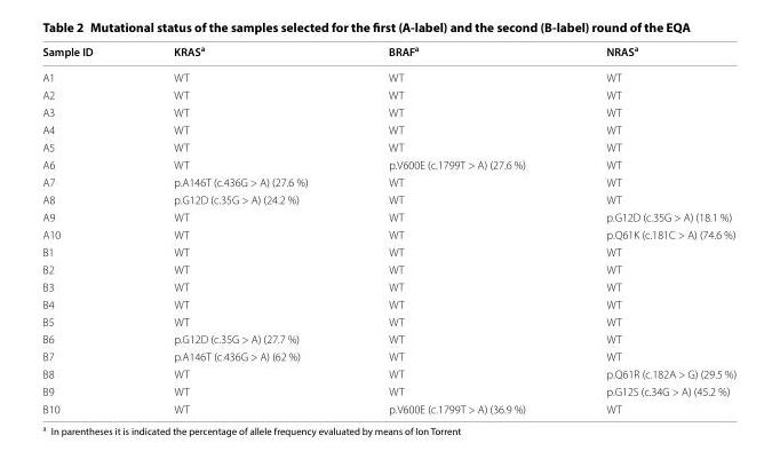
<table><thead><tr><td>Sample ID</td><td>KRAS<sup>a</sup></td><td>BRAF<sup>a</sup></td><td>NRAS<sup>a</sup></td></tr></thead><tbody><tr><td>A1</td><td>WT</td><td>WT</td><td>WT</td></tr><tr><td>A2</td><td>WT</td><td>WT</td><td>WT</td></tr><tr><td>A3</td><td>WT</td><td>WT</td><td>WT</td></tr><tr><td>A4</td><td>WT</td><td>WT</td><td>WT</td></tr><tr><td>A5</td><td>WT</td><td>WT</td><td>WT</td></tr><tr><td>A6</td><td>WT</td><td>p.V600E (c.1799T &gt; A) (27.6 %)</td><td>WT</td></tr><tr><td>A7</td><td>p.A146T (c.436G &gt; A) (27.6 %)</td><td>WT</td><td>WT</td></tr><tr><td>A8</td><td>p.G12D (c.35G &gt; A) (24.2 %)</td><td>WT</td><td>WT</td></tr><tr><td>A9</td><td>WT</td><td>WT</td><td>p.G12D (c.35G &gt; A) (18.1 %)</td></tr><tr><td>A10</td><td>WT</td><td>WT</td><td>p.Q61K (c.181C &gt; A) (74.6 %)</td></tr><tr><td>B1</td><td>WT</td><td>WT</td><td>WT</td></tr><tr><td>B2</td><td>WT</td><td>WT</td><td>WT</td></tr><tr><td>B3</td><td>WT</td><td>WT</td><td>WT</td></tr><tr><td>B4</td><td>WT</td><td>WT</td><td>WT</td></tr><tr><td>B5</td><td>WT</td><td>WT</td><td>WT</td></tr><tr><td>B6</td><td>p.G12D (c.35G &gt; A) (27.7 %)</td><td>WT</td><td>WT</td></tr><tr><td>B7</td><td>p.A146T (c.436G &gt; A) (62 %)</td><td>WT</td><td>WT</td></tr><tr><td>B8</td><td>WT</td><td>WT</td><td>p.Q61R (c.182A &gt; G) (29.5 %)</td></tr><tr><td>B9</td><td>WT</td><td>WT</td><td>p.G12S (c.34G &gt; A) (45.2 %)</td></tr><tr><td>B10</td><td>WT</td><td>p.V600E (c.1799T &gt; A) (36.9 %)</td><td>WT</td></tr></tbody></table>